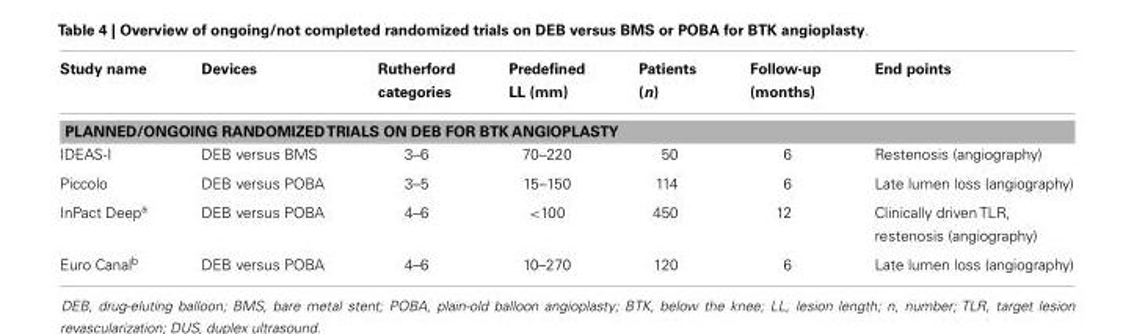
<table><thead><tr><td>Study name</td><td>Devices</td><td>Rutherford categories</td><td>Predefined LL (mm)</td><td>Patients (n)</td><td>Follow-up (months)</td><td>End points</td></tr></thead><tbody><tr><td colspan="7">PLANNED/ONGOING RANDOMIZEDTRIALS ON DEB FOR BTK ANGIOPLASTY</td></tr><tr><td>IDEAS-I</td><td>DEB versus BMS</td><td>3–6</td><td>70–220</td><td>50</td><td>6</td><td>Restenosis (angiography)</td></tr><tr><td>Piccolo</td><td>DEB versus POBA</td><td>3–5</td><td>15–150</td><td>114</td><td>6</td><td>Late lumen loss (angiography)</td></tr><tr><td>InPact Deep<sup>a</sup></td><td>DEB versus POBA</td><td>4–6</td><td>&lt;100</td><td>450</td><td>12</td><td>Clinically driven TLR, restenosis (angiography)</td></tr><tr><td>Euro Canal<sup>b</sup></td><td>DEB versus POBA</td><td>4–6</td><td>10–270</td><td>120</td><td>6</td><td>Late lumen loss (angiography)</td></tr></tbody></table>